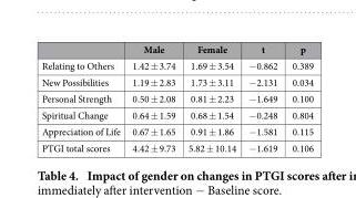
<table><thead><tr><td></td><td>Male</td><td>Female</td><td>t</td><td>p</td></tr></thead><tbody><tr><td>Relating to Others</td><td>1.42 ± 3.74</td><td>1.69 ± 3.54</td><td>− 0.862</td><td>0.389</td></tr><tr><td>New Possibilities</td><td>1.19 ± 2.83</td><td>1.73 ± 3.11</td><td>− 2.131</td><td>0.034</td></tr><tr><td>Personal Strength</td><td>0.50 ± 2.08</td><td>0.81 ± 2.23</td><td>− 1.649</td><td>0.100</td></tr><tr><td>Spiritual Change</td><td>0.64 ± 1.59</td><td>0.68 ± 1.54</td><td>− 0.248</td><td>0.804</td></tr><tr><td>Appreciation of Life</td><td>0.67 ± 1.65</td><td>0.91 ± 1.86</td><td>− 1.581</td><td>0.115</td></tr><tr><td>PTGI total scores</td><td>4.42 ± 9.73</td><td>5.82 ± 10.14</td><td>− 1.619</td><td>0.106</td></tr></tbody></table>